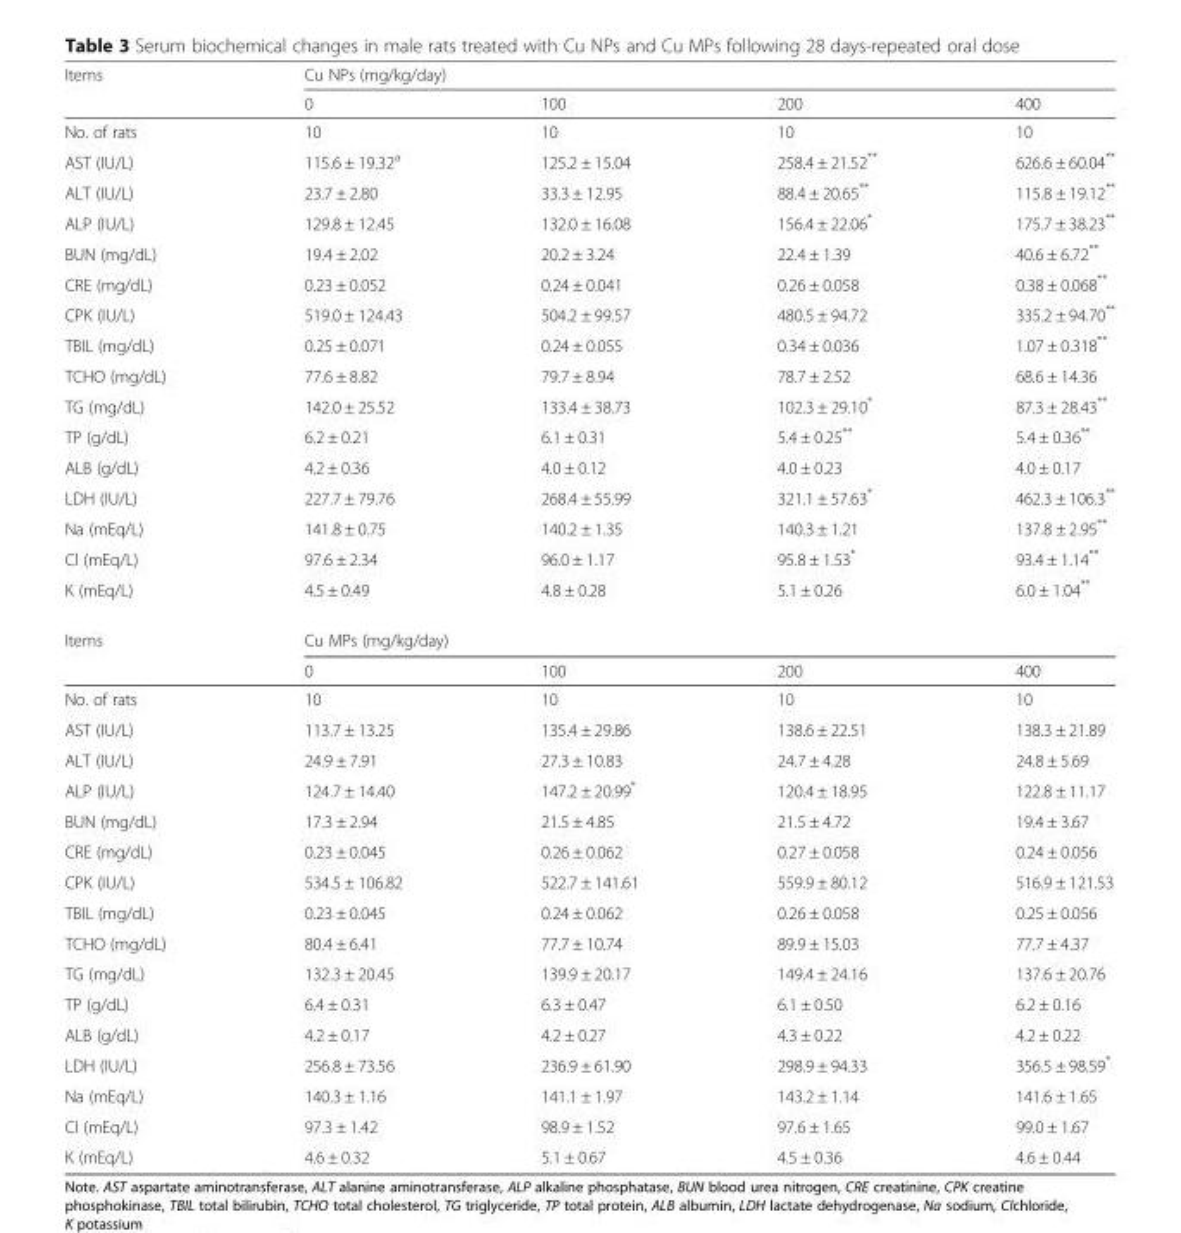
<table><tbody><tr><td rowspan="2">Items</td><td colspan="4">Cu NPs (mg/kg/day)</td></tr><tr><td>0</td><td>100</td><td>200</td><td>400</td></tr><tr><td>No. of rats</td><td>10</td><td>10</td><td>10</td><td>10</td></tr><tr><td>AST (IU/L)</td><td>115.6 ± 19.32<sup>a</sup></td><td>125.2 ± 15.04</td><td>258.4 ± 21.52**</td><td>626.6 ± 60.04**</td></tr><tr><td>ALT (IU/L)</td><td>23.7 ± 2.80</td><td>33.3 ± 12.95</td><td>88.4 ± 20.65**</td><td>115.8 ± 19.12**</td></tr><tr><td>ALP (IU/L)</td><td>129.8 ± 12.45</td><td>132.0 ± 16.08</td><td>156.4 ± 22.06*</td><td>175.7 ± 38.23**</td></tr><tr><td>BUN (mg/dL)</td><td>19.4 ± 2.02</td><td>20.2 ± 3.24</td><td>22.4 ± 1.39</td><td>40.6 ± 6.72**</td></tr><tr><td>CRE (mg/dL)</td><td>0.23 ± 0.052</td><td>0.24 ± 0.041</td><td>0.26 ± 0.058</td><td>0.38 ± 0.068**</td></tr><tr><td>CPK (IU/L)</td><td>519.0 ± 124.43</td><td>504.2 ± 99.57</td><td>480.5 ± 94.72</td><td>335.2 ± 94.70**</td></tr><tr><td>TBIL (mg/dL)</td><td>0.25 ± 0.071</td><td>0.24 ± 0.055</td><td>0.34 ± 0.036</td><td>1.07 ± 0.318**</td></tr><tr><td>TCHO (mg/dL)</td><td>77.6 ± 8.82</td><td>79.7 ± 8.94</td><td>78.7 ± 2.52</td><td>68.6 ± 14.36</td></tr><tr><td>TG (mg/dL)</td><td>142.0 ± 25.52</td><td>133.4 ± 38.73</td><td>102.3 ± 29.10*</td><td>87.3 ± 28.43**</td></tr><tr><td>TP (g/dL)</td><td>6.2 ± 0.21</td><td>6.1 ± 0.31</td><td>5.4 ± 0.25**</td><td>5.4 ± 0.36**</td></tr><tr><td>ALB (g/dL)</td><td>4.2 ± 0.36</td><td>4.0 ± 0.12</td><td>4.0 ± 0.23</td><td>4.0 ± 0.17</td></tr><tr><td>LDH (IU/L)</td><td>227.7 ± 79.76</td><td>268.4 ± 55.99</td><td>321.1 ± 57.63*</td><td>462.3 ± 106.3**</td></tr><tr><td>Na (mEq/L)</td><td>141.8 ± 0.75</td><td>140.2 ± 1.35</td><td>140.3 ± 1.21</td><td>137.8 ± 2.95**</td></tr><tr><td>Cl (mEq/L)</td><td>97.6 ± 2.34</td><td>96.0 ± 1.17</td><td>95.8 ± 1.53*</td><td>93.4 ± 1.14**</td></tr><tr><td>K (mEq/L)</td><td>4.5 ± 0.49</td><td>4.8 ± 0.28</td><td>5.1 ± 0.26</td><td>6.0 ± 1.04**</td></tr><tr><td rowspan="2">Items</td><td colspan="4">Cu MPs (mg/kg/day)</td></tr><tr><td>0</td><td>100</td><td>200</td><td>400</td></tr><tr><td>No. of rats</td><td>10</td><td>10</td><td>10</td><td>10</td></tr><tr><td>AST (IU/L)</td><td>113.7 ± 13.25</td><td>135.4 ± 29.86</td><td>138.6 ± 22.51</td><td>138.3 ± 21.89</td></tr><tr><td>ALT (IU/L)</td><td>24.9 ± 7.91</td><td>27.3 ± 10.83</td><td>24.7 ± 4.28</td><td>24.8 ± 5.69</td></tr><tr><td>ALP (IU/L)</td><td>124.7 ± 14.40</td><td>147.2 ± 20.99*</td><td>120.4 ± 18.95</td><td>122.8 ± 11.17</td></tr><tr><td>BUN (mg/dL)</td><td>17.3 ± 2.94</td><td>21.5 ± 4.85</td><td>21.5 ± 4.72</td><td>19.4 ± 3.67</td></tr><tr><td>CRE (mg/dL)</td><td>0.23 ± 0.045</td><td>0.26 ± 0.062</td><td>0.27 ± 0.058</td><td>0.24 ± 0.056</td></tr><tr><td>CPK (IU/L)</td><td>534.5 ± 106.82</td><td>522.7 ± 141.61</td><td>559.9 ± 80.12</td><td>516.9 ± 121.53</td></tr><tr><td>TBIL (mg/dL)</td><td>0.23 ± 0.045</td><td>0.24 ± 0.062</td><td>0.26 ± 0.058</td><td>0.25 ± 0.056</td></tr><tr><td>TCHO (mg/dL)</td><td>80.4 ± 6.41</td><td>77.7 ± 10.74</td><td>89.9 ± 15.03</td><td>77.7 ± 4.37</td></tr><tr><td>TG (mg/dL)</td><td>132.3 ± 20.45</td><td>139.9 ± 20.17</td><td>149.4 ± 24.16</td><td>137.6 ± 20.76</td></tr><tr><td>TP (g/dL)</td><td>6.4 ± 0.31</td><td>6.3 ± 0.47</td><td>6.1 ± 0.50</td><td>6.2 ± 0.16</td></tr><tr><td>ALB (g/dL)</td><td>4.2 ± 0.17</td><td>4.2 ± 0.27</td><td>4.3 ± 0.22</td><td>4.2 ± 0.22</td></tr><tr><td>LDH (IU/L)</td><td>256.8 ± 73.56</td><td>236.9 ± 61.90</td><td>298.9 ± 94.33</td><td>356.5 ± 98.59*</td></tr><tr><td>Na (mEq/L)</td><td>140.3 ± 1.16</td><td>141.1 ± 1.97</td><td>143.2 ± 1.14</td><td>141.6 ± 1.65</td></tr><tr><td>Cl (mEq/L)</td><td>97.3 ± 1.42</td><td>98.9 ± 1.52</td><td>97.6 ± 1.65</td><td>99.0 ± 1.67</td></tr><tr><td>K (mEq/L)</td><td>4.6 ± 0.32</td><td>5.1 ± 0.67</td><td>4.5 ± 0.36</td><td>4.6 ± 0.44</td></tr></tbody></table>